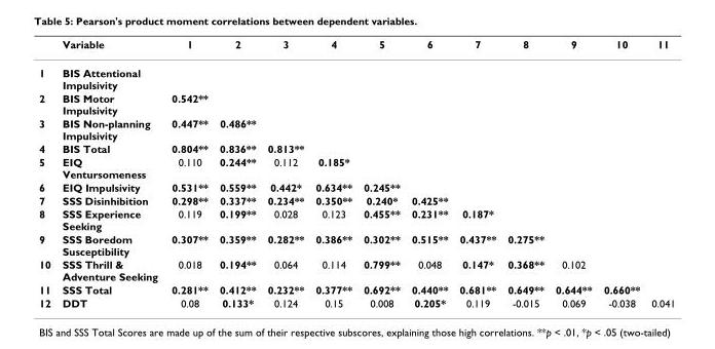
<table><thead><tr><td></td><td>Variable</td><td>1</td><td>2</td><td>3</td><td>4</td><td>5</td><td>6</td><td>7</td><td>8</td><td>9</td><td>10</td><td>11</td></tr></thead><tbody><tr><td>1</td><td>BIS Attentional Impulsivity</td><td></td><td></td><td></td><td></td><td></td><td></td><td></td><td></td><td></td><td></td><td></td></tr><tr><td>2</td><td>BIS Motor Impulsivity</td><td>0.542**</td><td></td><td></td><td></td><td></td><td></td><td></td><td></td><td></td><td></td><td></td></tr><tr><td>3</td><td>BIS Non-planning Impulsivity</td><td>0.447**</td><td>0.486**</td><td></td><td></td><td></td><td></td><td></td><td></td><td></td><td></td><td></td></tr><tr><td>4</td><td>BIS Total</td><td>0.804**</td><td>0.836**</td><td>0.813**</td><td></td><td></td><td></td><td></td><td></td><td></td><td></td><td></td></tr><tr><td>5</td><td>EIQ Ventursomeness</td><td>0.110</td><td>0.244**</td><td>0.112</td><td>0.185*</td><td></td><td></td><td></td><td></td><td></td><td></td><td></td></tr><tr><td>6</td><td>EIQ Impulsivity</td><td>0.531**</td><td>0.559**</td><td>0.442*</td><td>0.634**</td><td>0.245**</td><td></td><td></td><td></td><td></td><td></td><td></td></tr><tr><td>7</td><td>SSS Disinhibition</td><td>0.298**</td><td>0.337**</td><td>0.234**</td><td>0.350**</td><td>0.240*</td><td>0.425**</td><td></td><td></td><td></td><td></td><td></td></tr><tr><td>8</td><td>SSS Experience Seeking</td><td>0.119</td><td>0.199**</td><td>0.028</td><td>0.123</td><td>0.455**</td><td>0.231**</td><td>0.187*</td><td></td><td></td><td></td><td></td></tr><tr><td>9</td><td>SSS Boredom Susceptibility</td><td>0.307**</td><td>0.359**</td><td>0.282**</td><td>0.386**</td><td>0.302**</td><td>0.515**</td><td>0.437**</td><td>0.275**</td><td></td><td></td><td></td></tr><tr><td>10</td><td>SSS Thrill &amp; Adventure Seeking</td><td>0.018</td><td>0.194**</td><td>0.064</td><td>0.114</td><td>0.799**</td><td>0.048</td><td>0.147*</td><td>0.368**</td><td>0.102</td><td></td><td></td></tr><tr><td>11</td><td>SSS Total</td><td>0.281**</td><td>0.412**</td><td>0.232**</td><td>0.377**</td><td>0.692**</td><td>0.440**</td><td>0.681**</td><td>0.649**</td><td>0.644**</td><td>0.660**</td><td></td></tr><tr><td>12</td><td>DDT</td><td>0.08</td><td>0.133*</td><td>0.124</td><td>0.15</td><td>0.008</td><td>0.205*</td><td>0.119</td><td>-0.015</td><td>0.069</td><td>-0.038</td><td>0.041</td></tr></tbody></table>